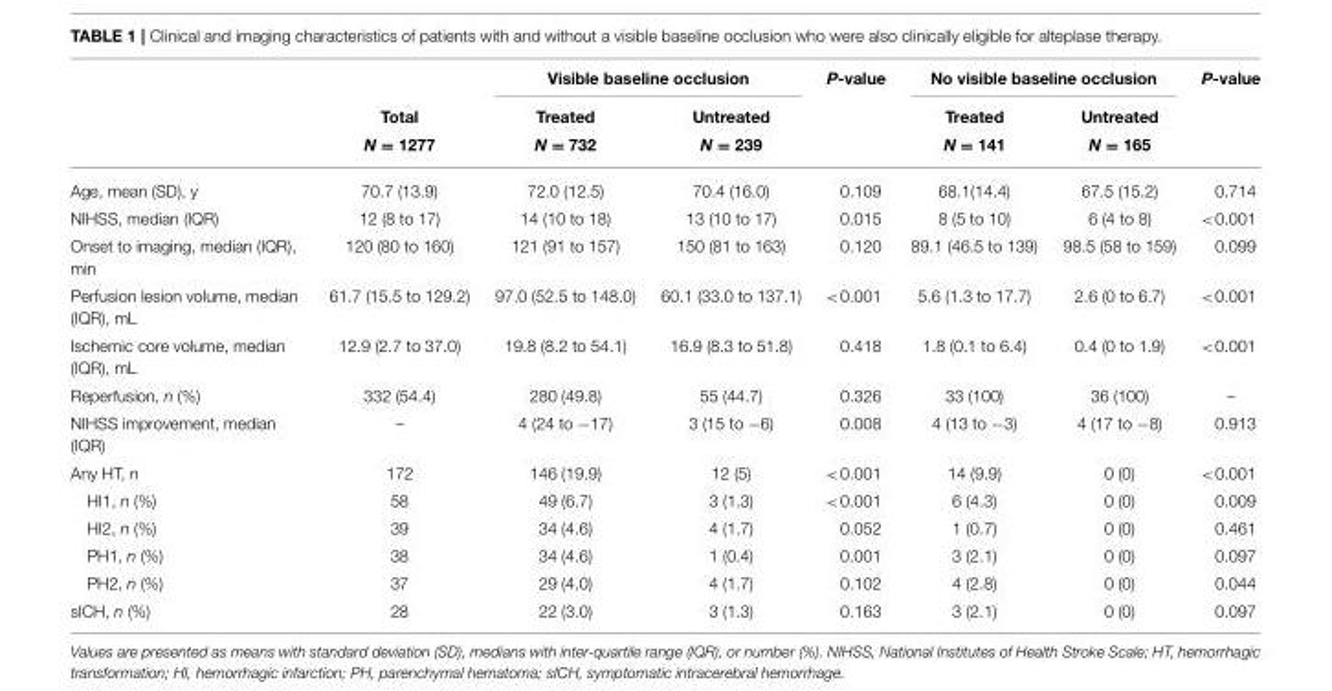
<table><thead><tr><td rowspan="3"></td><td rowspan="3">Total N = 1277</td><td colspan="2">Visible baseline occlusion</td><td rowspan="3">P-value</td><td colspan="2">No visible baseline occlusion</td><td rowspan="3">P-value</td></tr><tr><td rowspan="2">Treated N = 732</td><td rowspan="2">Untreated N = 239</td><td rowspan="2">Treated N = 141</td><td rowspan="2">Untreated N = 165</td></tr><tr></tr></thead><tbody><tr><td>Age, mean (SD), y</td><td>70.7 (13.9)</td><td>72.0 (12.5)</td><td>70.4 (16.0)</td><td>0.109</td><td>68.1(14.4)</td><td>67.5 (15.2)</td><td>0.714</td></tr><tr><td>NIHSS, median (IQR)</td><td>12 (8 to 17)</td><td>14 (10 to 18)</td><td>13 (10 to 17)</td><td>0.015</td><td>8 (5 to 10)</td><td>6 (4 to 8)</td><td>&lt;0.001</td></tr><tr><td>Onset to imaging, median (IQR), min</td><td>120 (80 to 160)</td><td>121 (91 to 157)</td><td>150 (81 to 163)</td><td>0.120</td><td>89.1 (46.5 to 139)</td><td>98.5 (58 to 159)</td><td>0.099</td></tr><tr><td>Perfusion lesion volume, median (IQR), mL</td><td>61.7 (15.5 to 129.2)</td><td>97.0 (52.5 to 148.0)</td><td>60.1 (33.0 to 137.1)</td><td>&lt;0.001</td><td>5.6 (1.3 to 17.7)</td><td>2.6 (0 to 6.7)</td><td>&lt;0.001</td></tr><tr><td>Ischemic core volume, median (IQR), mL</td><td>12.9 (2.7 to 37.0)</td><td>19.8 (8.2 to 54.1)</td><td>16.9 (8.3 to 51.8)</td><td>0.418</td><td>1.8 (0.1 to 6.4)</td><td>0.4 (0 to 1.9)</td><td>&lt;0.001</td></tr><tr><td>Reperfusion, n (%)</td><td>332 (54.4)</td><td>280 (49.8)</td><td>55 (44.7)</td><td>0.326</td><td>33 (100)</td><td>36 (100)</td><td>–</td></tr><tr><td>NIHSS improvement, median (IQR)</td><td>–</td><td>4 (24 to −17)</td><td>3 (15 to −6)</td><td>0.008</td><td>4 (13 to −3)</td><td>4 (17 to −8)</td><td>0.913</td></tr><tr><td>Any HT, n</td><td>172</td><td>146 (19.9)</td><td>12 (5)</td><td>&lt;0.001</td><td>14 (9.9)</td><td>0 (0)</td><td>&lt;0.001</td></tr><tr><td>HI1, n (%)</td><td>58</td><td>49 (6.7)</td><td>3 (1.3)</td><td>&lt;0.001</td><td>6 (4.3)</td><td>0 (0)</td><td>0.009</td></tr><tr><td>HI2, n (%)</td><td>39</td><td>34 (4.6)</td><td>4 (1.7)</td><td>0.052</td><td>1 (0.7)</td><td>0 (0)</td><td>0.461</td></tr><tr><td>PH1, n (%)</td><td>38</td><td>34 (4.6)</td><td>1 (0.4)</td><td>0.001</td><td>3 (2.1)</td><td>0 (0)</td><td>0.097</td></tr><tr><td>PH2, n (%)</td><td>37</td><td>29 (4.0)</td><td>4 (1.7)</td><td>0.102</td><td>4 (2.8)</td><td>0 (0)</td><td>0.044</td></tr><tr><td>sICH, n (%)</td><td>28</td><td>22 (3.0)</td><td>3 (1.3)</td><td>0.163</td><td>3 (2.1)</td><td>0 (0)</td><td>0.097</td></tr></tbody></table>